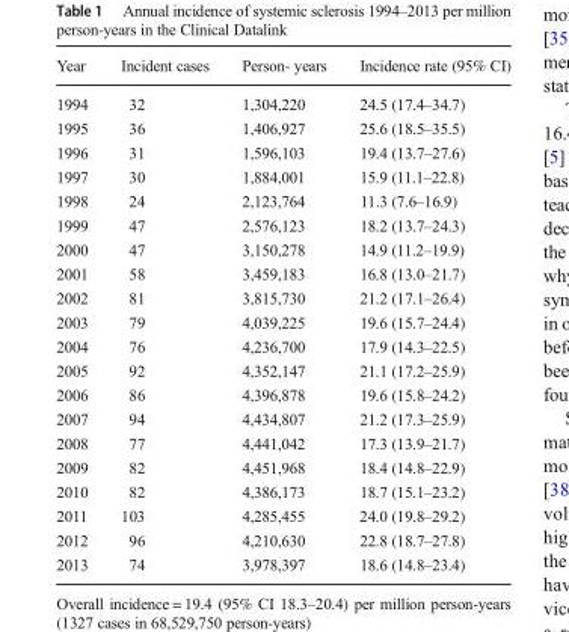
<table><thead><tr><td>Year</td><td>Incident cases</td><td>Person- years</td><td>Incidence rate (95% CI)</td></tr></thead><tbody><tr><td>1994</td><td>32</td><td>1,304,220</td><td>24.5 (17.4–34.7)</td></tr><tr><td>1995</td><td>36</td><td>1,406,927</td><td>25.6 (18.5–35.5)</td></tr><tr><td>1996</td><td>31</td><td>1,596,103</td><td>19.4 (13.7–27.6)</td></tr><tr><td>1997</td><td>30</td><td>1,884,001</td><td>15.9 (11.1–22.8)</td></tr><tr><td>1998</td><td>24</td><td>2,123,764</td><td>11.3 (7.6–16.9)</td></tr><tr><td>1999</td><td>47</td><td>2,576,123</td><td>18.2 (13.7–24.3)</td></tr><tr><td>2000</td><td>47</td><td>3,150,278</td><td>14.9 (11.2–19.9)</td></tr><tr><td>2001</td><td>58</td><td>3,459,183</td><td>16.8 (13.0–21.7)</td></tr><tr><td>2002</td><td>81</td><td>3,815,730</td><td>21.2 (17.1–26.4)</td></tr><tr><td>2003</td><td>79</td><td>4,039,225</td><td>19.6 (15.7–24.4)</td></tr><tr><td>2004</td><td>76</td><td>4,236,700</td><td>17.9 (14.3–22.5)</td></tr><tr><td>2005</td><td>92</td><td>4,352,147</td><td>21.1 (17.2–25.9)</td></tr><tr><td>2006</td><td>86</td><td>4,396,878</td><td>19.6 (15.8–24.2)</td></tr><tr><td>2007</td><td>94</td><td>4,434,807</td><td>21.2 (17.3–25.9)</td></tr><tr><td>2008</td><td>77</td><td>4,441,042</td><td>17.3 (13.9–21.7)</td></tr><tr><td>2009</td><td>82</td><td>4,451,968</td><td>18.4 (14.8–22.9)</td></tr><tr><td>2010</td><td>82</td><td>4,386,173</td><td>18.7 (15.1–23.2)</td></tr><tr><td>2011</td><td>103</td><td>4,285,455</td><td>24.0 (19.8–29.2)</td></tr><tr><td>2012</td><td>96</td><td>4,210,630</td><td>22.8 (18.7–27.8)</td></tr><tr><td>2013</td><td>74</td><td>3,978,397</td><td>18.6 (14.8–23.4)</td></tr></tbody></table>